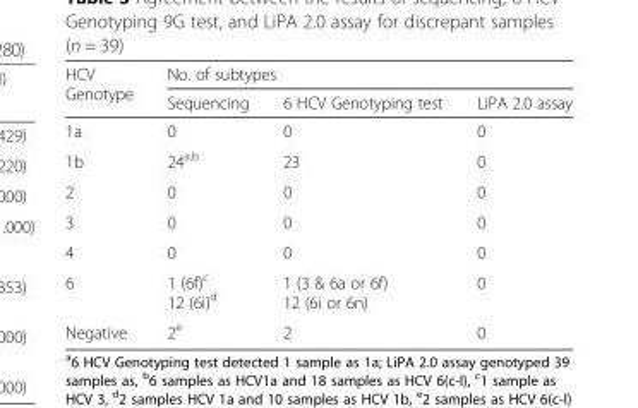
<table><thead><tr><td rowspan="2">HCV Genotype</td><td colspan="3">No. of subtypes</td></tr><tr><td>Sequencing</td><td>6 HCV Genotyping test</td><td>LiPA 2.0 assay</td></tr></thead><tbody><tr><td>1a</td><td>0</td><td>0</td><td>0</td></tr><tr><td>1b</td><td>24<sup>a,b</sup></td><td>23</td><td>0</td></tr><tr><td>2</td><td>0</td><td>0</td><td>0</td></tr><tr><td>3</td><td>0</td><td>0</td><td>0</td></tr><tr><td>4</td><td>0</td><td>0</td><td>0</td></tr><tr><td>6</td><td>1 (6f)<sup>c</sup> 12 (6i)<sup>d</sup></td><td>1 (3 &amp; 6a or 6f) 12 (6i or 6n)</td><td>0</td></tr><tr><td>Negative</td><td>2<sup>e</sup></td><td>2</td><td>0</td></tr></tbody></table>